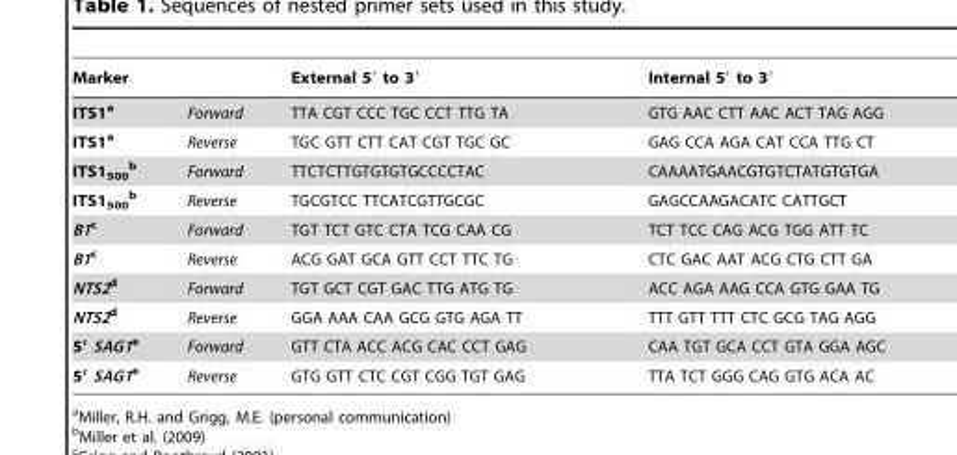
<table><thead><tr><td colspan="2">Marker</td><td rowspan="2">External 5′ to 3′ TTA CGT CCC TGC CCT TTG TA</td><td rowspan="2">Internal 5′ to 3′ GTG AAC CTT AAC ACT TAG AGG</td></tr><tr><td>ITS1a</td><td>Forward</td></tr></thead><tbody><tr><td>ITS1a</td><td>Reverse</td><td>TGC GTT CTT CAT CGT TGC GC</td><td>GAG CCA AGA CAT CCA TTG CT</td></tr><tr><td>ITS1<sub>500</sub> b</td><td>Forward</td><td>TTCTCTTGTGTGTGCCCCTAC</td><td>CAAAATGAACGTGTCTATGTGTGA</td></tr><tr><td>ITS1<sub>500</sub> b</td><td>Reverse</td><td>TGCGTCC TTCATCGTTGCGC</td><td>GAGCCAAGACATC CATTGCT</td></tr><tr><td>B1c</td><td>Forward</td><td>TGT TCT GTC CTA TCG CAA CG</td><td>TCT TCC CAG ACG TGG ATT TC</td></tr><tr><td>B1c</td><td>Reverse</td><td>ACG GAT GCA GTT CCT TTC TG</td><td>CTC GAC AAT ACG CTG CTT GA</td></tr><tr><td>NTS2d</td><td>Forward</td><td>TGT GCT CGT GAC TTG ATG TG</td><td>ACC AGA AAG CCA GTG GAA TG</td></tr><tr><td>NTS2d</td><td>Reverse</td><td>GGA AAA CAA GCG GTG AGA TT</td><td>TTT GTT TTT CTC GCG TAG AGG</td></tr><tr><td>5′ SAG1e</td><td>Forward</td><td>GTT CTA ACC ACG CAC CCT GAG</td><td>CAA TGT GCA CCT GTA GGA AGC</td></tr><tr><td>5′ SAG1e</td><td>Reverse</td><td>GTG GTT CTC CGT CGG TGT GAG</td><td>TTA TCT GGG CAG GTG ACA AC</td></tr></tbody></table>